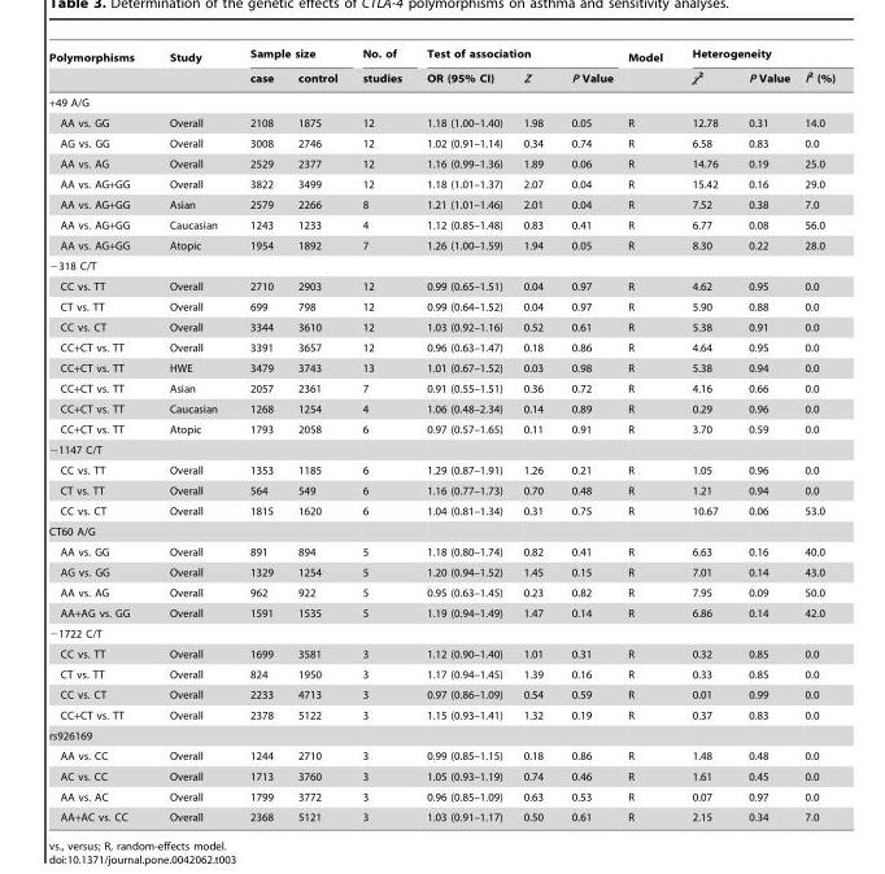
<table><thead><tr><td rowspan="2">Polymorphisms</td><td rowspan="2">Study</td><td colspan="2">Sample size</td><td rowspan="2">No. of studies</td><td colspan="3">Test of association</td><td rowspan="2">Model</td><td colspan="3">Heterogeneity</td></tr><tr><td>case</td><td>control</td><td>OR (95% CI)</td><td>Z</td><td>P Value</td><td>χ<sup>2</sup></td><td>P Value</td><td>I<sup>2</sup> (%)</td></tr></thead><tbody><tr><td colspan="12">+49 A/G</td></tr><tr><td>AA vs. GG</td><td>Overall</td><td>2108</td><td>1875</td><td>12</td><td>1.18 (1.00–1.40)</td><td>1.98</td><td>0.05</td><td>R</td><td>12.78</td><td>0.31</td><td>14.0</td></tr><tr><td>AG vs. GG</td><td>Overall</td><td>3008</td><td>2746</td><td>12</td><td>1.02 (0.91–1.14)</td><td>0.34</td><td>0.74</td><td>R</td><td>6.58</td><td>0.83</td><td>0.0</td></tr><tr><td>AA vs. AG</td><td>Overall</td><td>2529</td><td>2377</td><td>12</td><td>1.16 (0.99–1.36)</td><td>1.89</td><td>0.06</td><td>R</td><td>14.76</td><td>0.19</td><td>25.0</td></tr><tr><td>AA vs. AG+GG</td><td>Overall</td><td>3822</td><td>3499</td><td>12</td><td>1.18 (1.01–1.37)</td><td>2.07</td><td>0.04</td><td>R</td><td>15.42</td><td>0.16</td><td>29.0</td></tr><tr><td>AA vs. AG+GG</td><td>Asian</td><td>2579</td><td>2266</td><td>8</td><td>1.21 (1.01–1.46)</td><td>2.01</td><td>0.04</td><td>R</td><td>7.52</td><td>0.38</td><td>7.0</td></tr><tr><td>AA vs. AG+GG</td><td>Caucasian</td><td>1243</td><td>1233</td><td>4</td><td>1.12 (0.85–1.48)</td><td>0.83</td><td>0.41</td><td>R</td><td>6.77</td><td>0.08</td><td>56.0</td></tr><tr><td>AA vs. AG+GG</td><td>Atopic</td><td>1954</td><td>1892</td><td>7</td><td>1.26 (1.00–1.59)</td><td>1.94</td><td>0.05</td><td>R</td><td>8.30</td><td>0.22</td><td>28.0</td></tr><tr><td colspan="12">−318 C/T</td></tr><tr><td>CC vs. TT</td><td>Overall</td><td>2710</td><td>2903</td><td>12</td><td>0.99 (0.65–1.51)</td><td>0.04</td><td>0.97</td><td>R</td><td>4.62</td><td>0.95</td><td>0.0</td></tr><tr><td>CT vs. TT</td><td>Overall</td><td>699</td><td>798</td><td>12</td><td>0.99 (0.64–1.52)</td><td>0.04</td><td>0.97</td><td>R</td><td>5.90</td><td>0.88</td><td>0.0</td></tr><tr><td>CC vs. CT</td><td>Overall</td><td>3344</td><td>3610</td><td>12</td><td>1.03 (0.92–1.16)</td><td>0.52</td><td>0.61</td><td>R</td><td>5.38</td><td>0.91</td><td>0.0</td></tr><tr><td>CC+CT vs. TT</td><td>Overall</td><td>3391</td><td>3657</td><td>12</td><td>0.96 (0.63–1.47)</td><td>0.18</td><td>0.86</td><td>R</td><td>4.64</td><td>0.95</td><td>0.0</td></tr><tr><td>CC+CT vs. TT</td><td>HWE</td><td>3479</td><td>3743</td><td>13</td><td>1.01 (0.67–1.52)</td><td>0.03</td><td>0.98</td><td>R</td><td>5.38</td><td>0.94</td><td>0.0</td></tr><tr><td>CC+CT vs. TT</td><td>Asian</td><td>2057</td><td>2361</td><td>7</td><td>0.91 (0.55–1.51)</td><td>0.36</td><td>0.72</td><td>R</td><td>4.16</td><td>0.66</td><td>0.0</td></tr><tr><td>CC+CT vs. TT</td><td>Caucasian</td><td>1268</td><td>1254</td><td>4</td><td>1.06 (0.48–2.34)</td><td>0.14</td><td>0.89</td><td>R</td><td>0.29</td><td>0.96</td><td>0.0</td></tr><tr><td>CC+CT vs. TT</td><td>Atopic</td><td>1793</td><td>2058</td><td>6</td><td>0.97 (0.57–1.65)</td><td>0.11</td><td>0.91</td><td>R</td><td>3.70</td><td>0.59</td><td>0.0</td></tr><tr><td colspan="12">−1147 C/T</td></tr><tr><td>CC vs. TT</td><td>Overall</td><td>1353</td><td>1185</td><td>6</td><td>1.29 (0.87–1.91)</td><td>1.26</td><td>0.21</td><td>R</td><td>1.05</td><td>0.96</td><td>0.0</td></tr><tr><td>CT vs. TT</td><td>Overall</td><td>564</td><td>549</td><td>6</td><td>1.16 (0.77–1.73)</td><td>0.70</td><td>0.48</td><td>R</td><td>1.21</td><td>0.94</td><td>0.0</td></tr><tr><td>CC vs. CT</td><td>Overall</td><td>1815</td><td>1620</td><td>6</td><td>1.04 (0.81–1.34)</td><td>0.31</td><td>0.75</td><td>R</td><td>10.67</td><td>0.06</td><td>53.0</td></tr><tr><td colspan="12">CT60 A/G</td></tr><tr><td>AA vs. GG</td><td>Overall</td><td>891</td><td>894</td><td>5</td><td>1.18 (0.80–1.74)</td><td>0.82</td><td>0.41</td><td>R</td><td>6.63</td><td>0.16</td><td>40.0</td></tr><tr><td>AG vs. GG</td><td>Overall</td><td>1329</td><td>1254</td><td>5</td><td>1.20 (0.94–1.52)</td><td>1.45</td><td>0.15</td><td>R</td><td>7.01</td><td>0.14</td><td>43.0</td></tr><tr><td>AA vs. AG</td><td>Overall</td><td>962</td><td>922</td><td>5</td><td>0.95 (0.63–1.45)</td><td>0.23</td><td>0.82</td><td>R</td><td>7.95</td><td>0.09</td><td>50.0</td></tr><tr><td>AA+AG vs. GG</td><td>Overall</td><td>1591</td><td>1535</td><td>5</td><td>1.19 (0.94–1.49)</td><td>1.47</td><td>0.14</td><td>R</td><td>6.86</td><td>0.14</td><td>42.0</td></tr><tr><td colspan="12">−1722 C/T</td></tr><tr><td>CC vs. TT</td><td>Overall</td><td>1699</td><td>3581</td><td>3</td><td>1.12 (0.90–1.40)</td><td>1.01</td><td>0.31</td><td>R</td><td>0.32</td><td>0.85</td><td>0.0</td></tr><tr><td>CT vs. TT</td><td>Overall</td><td>824</td><td>1950</td><td>3</td><td>1.17 (0.94–1.45)</td><td>1.39</td><td>0.16</td><td>R</td><td>0.33</td><td>0.85</td><td>0.0</td></tr><tr><td>CC vs. CT</td><td>Overall</td><td>2233</td><td>4713</td><td>3</td><td>0.97 (0.86–1.09)</td><td>0.54</td><td>0.59</td><td>R</td><td>0.01</td><td>0.99</td><td>0.0</td></tr><tr><td>CC+CT vs. TT</td><td>Overall</td><td>2378</td><td>5122</td><td>3</td><td>1.15 (0.93–1.41)</td><td>1.32</td><td>0.19</td><td>R</td><td>0.37</td><td>0.83</td><td>0.0</td></tr><tr><td colspan="12">rs926169</td></tr><tr><td>AA vs. CC</td><td>Overall</td><td>1244</td><td>2710</td><td>3</td><td>0.99 (0.85–1.15)</td><td>0.18</td><td>0.86</td><td>R</td><td>1.48</td><td>0.48</td><td>0.0</td></tr><tr><td>AC vs. CC</td><td>Overall</td><td>1713</td><td>3760</td><td>3</td><td>1.05 (0.93–1.19)</td><td>0.74</td><td>0.46</td><td>R</td><td>1.61</td><td>0.45</td><td>0.0</td></tr><tr><td>AA vs. AC</td><td>Overall</td><td>1799</td><td>3772</td><td>3</td><td>0.96 (0.85–1.09)</td><td>0.63</td><td>0.53</td><td>R</td><td>0.07</td><td>0.97</td><td>0.0</td></tr><tr><td>AA+AC vs. CC</td><td>Overall</td><td>2368</td><td>5121</td><td>3</td><td>1.03 (0.91–1.17)</td><td>0.50</td><td>0.61</td><td>R</td><td>2.15</td><td>0.34</td><td>7.0</td></tr></tbody></table>